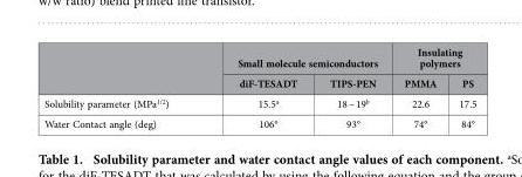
<table><thead><tr><td rowspan="2"></td><td colspan="2">Small molecule semiconductors</td><td colspan="2">Insulating polymers</td></tr><tr><td>diF-TESADT</td><td>TIPS-PEN</td><td>PMMA</td><td>PS</td></tr></thead><tbody><tr><td>Solubility parameter (MPa<sup>1/2</sup>)</td><td>15.5<sup>a</sup></td><td>18 ~ 19<sup>b</sup></td><td>22.6</td><td>17.5</td></tr><tr><td>Water Contact angle (deg)</td><td>106°</td><td>93°</td><td>74°</td><td>84°</td></tr></tbody></table>